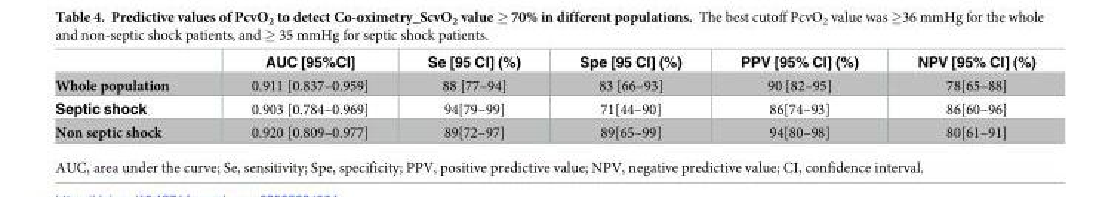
<table><thead><tr><td></td><td>AUC [95%CI]</td><td>Se [95 CI] (%)</td><td>Spe [95 CI] (%)</td><td>PPV [95% CI] (%)</td><td>NPV [95% CI] (%)</td></tr></thead><tbody><tr><td>Whole population</td><td>0.911 [0.837–0.959]</td><td>88 [77–94]</td><td>83 [66–93]</td><td>90 [82–95]</td><td>78[65–88]</td></tr><tr><td>Septic shock</td><td>0.903 [0.784–0.969]</td><td>94[79–99]</td><td>71[44–90]</td><td>86[74–93]</td><td>86[60–96]</td></tr><tr><td>Non septic shock</td><td>0.920 [0.809–0.977]</td><td>89[72–97]</td><td>89[65–99]</td><td>94[80–98]</td><td>80[61–91]</td></tr></tbody></table>